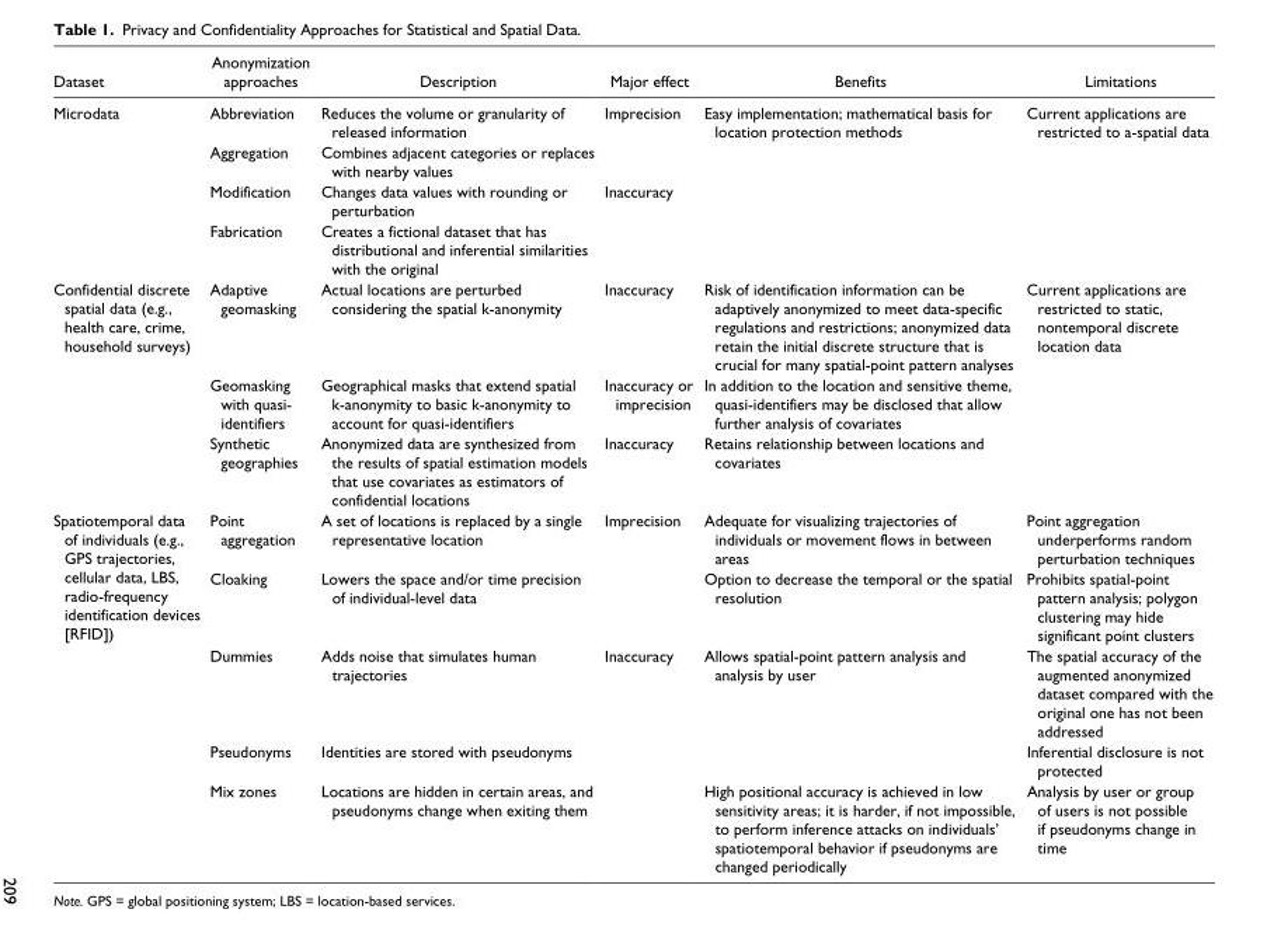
<table><thead><tr><td>Dataset</td><td>Anonymization approaches</td><td>Description</td><td>Major effect</td><td>Benefits</td><td>Limitations</td></tr></thead><tbody><tr><td rowspan="4">Microdata</td><td>Abbreviation</td><td>Reduces the volume or granularity of released information</td><td rowspan="2">Imprecision</td><td rowspan="4">Easy implementation; mathematical basis for location protection methods</td><td rowspan="4">Current applications are restricted to a-spatial data</td></tr><tr><td>Aggregation</td><td>Combines adjacent categories or replaces with nearby values</td></tr><tr><td>Modification</td><td>Changes data values with rounding or perturbation</td><td rowspan="2">Inaccuracy</td></tr><tr><td>Fabrication</td><td>Creates a fictional dataset that has distributional and inferential similarities with the original</td></tr><tr><td rowspan="3">Confidential discrete spatial data (e.g., health care, crime, household surveys)</td><td>Adaptive geomasking</td><td>Actual locations are perturbed considering the spatial k-anonymity</td><td>Inaccuracy</td><td>Risk of identification information can be adaptively anonymized to meet data-specific regulations and restrictions; anonymized data retain the initial discrete structure that is crucial for many spatial-point pattern analyses</td><td rowspan="3">Current applications are restricted to static, nontemporal discrete location data</td></tr><tr><td>Geomasking with quasi- identifiers</td><td>Geographical masks that extend spatial k-anonymity to basic k-anonymity to account for quasi-identifiers</td><td>Inaccuracy or imprecision</td><td>In addition to the location and sensitive theme, quasi-identifiers may be disclosed that allow further analysis of covariates</td></tr><tr><td>Synthetic geographies</td><td>Anonymized data are synthesized from the results of spatial estimation models that use covariates as estimators of confidential locations</td><td>Inaccuracy</td><td>Retains relationship between locations and covariates</td></tr><tr><td rowspan="5">Spatiotemporal data of individuals (e.g., GPS trajectories, cellular data, LBS, radio-frequency identification devices [RFID])</td><td>Point aggregation</td><td>A set of locations is replaced by a single representative location</td><td rowspan="2">Imprecision</td><td>Adequate for visualizing trajectories of individuals or movement flows in between areas</td><td>Point aggregation underperforms random perturbation techniques</td></tr><tr><td>Cloaking</td><td>Lowers the space and/or time precision of individual-level data</td><td>Option to decrease the temporal or the spatial resolution</td><td>Prohibits spatial-point pattern analysis; polygon clustering may hide significant point clusters</td></tr><tr><td>Dummies</td><td>Adds noise that simulates human trajectories</td><td rowspan="3">Inaccuracy</td><td rowspan="2">Allows spatial-point pattern analysis and analysis by user</td><td>The spatial accuracy of the augmented anonymized dataset compared with the original one has not been addressed</td></tr><tr><td>Pseudonyms</td><td>Identities are stored with pseudonyms</td><td>Inferential disclosure is not protected</td></tr><tr><td>Mix zones</td><td>Locations are hidden in certain areas, and pseudonyms change when exiting them</td><td>High positional accuracy is achieved in low sensitivity areas; it is harder, if not impossible, to perform inference attacks on individuals’ spatiotemporal behavior if pseudonyms are changed periodically</td><td>Analysis by user or group of users is not possible if pseudonyms change in time</td></tr></tbody></table>